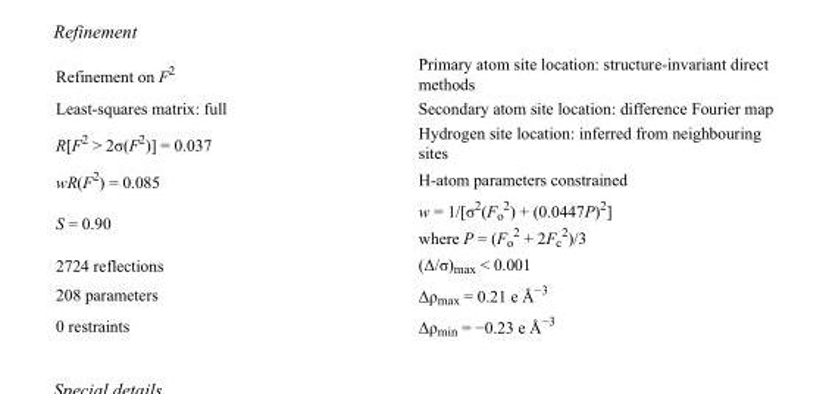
<table><tbody><tr><td>Refinement on F<sup>2</sup></td><td>Primary atom site location: structure-invariant direct methods</td></tr><tr><td>Least-squares matrix: full</td><td>Secondary atom site location: difference Fourier map</td></tr><tr><td>R[F<sup>2</sup> &gt; 2σ(F<sup>2</sup>)] = 0.037</td><td>Hydrogen site location: inferred from neighbouring sites</td></tr><tr><td>wR(F<sup>2</sup>) = 0.085</td><td>H-atom parameters constrained</td></tr><tr><td>S = 0.90</td><td>w = 1/[σ<sup>2</sup>(F<sub>o</sub> <sup>2</sup>) + (0.0447P)<sup>2</sup>] where P = (F<sub>o</sub> <sup>2</sup> + 2F<sub>c</sub> <sup>2</sup>)/3</td></tr><tr><td>2724 reflections</td><td>(Δ/σ)<sub>max</sub> &lt; 0.001</td></tr><tr><td>208 parameters</td><td>Δρ<sub>max</sub> = 0.21 e Å<sup>−3</sup></td></tr><tr><td>0 restraints</td><td>Δρ<sub>min</sub> = −0.23 e Å<sup>−3</sup></td></tr></tbody></table>